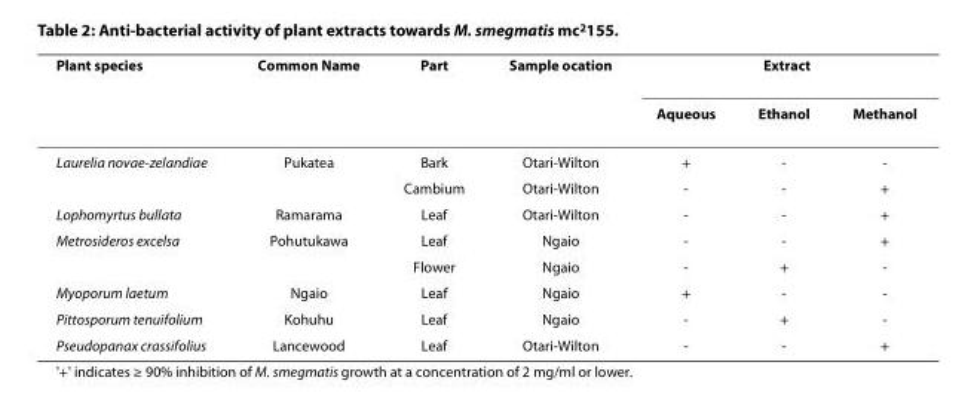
<table><thead><tr><td rowspan="2">Plant species</td><td rowspan="2">Common Name</td><td rowspan="2">Part</td><td rowspan="2">Sample ocation</td><td colspan="3">Extract</td></tr><tr><td>Aqueous</td><td>Ethanol</td><td>Methanol</td></tr></thead><tbody><tr><td rowspan="2">Laurelia novae-zelandiae</td><td>Pukatea</td><td>Bark</td><td>Otari-Wilton</td><td>+</td><td>-</td><td>-</td></tr><tr><td></td><td>Cambium</td><td>Otari-Wilton</td><td>-</td><td>-</td><td>+</td></tr><tr><td>Lophomyrtus bullata</td><td>Ramarama</td><td>Leaf</td><td>Otari-Wilton</td><td>-</td><td>-</td><td>+</td></tr><tr><td rowspan="2">Metrosideros excelsa</td><td>Pohutukawa</td><td>Leaf</td><td>Ngaio</td><td>-</td><td>-</td><td>+</td></tr><tr><td></td><td>Flower</td><td>Ngaio</td><td>-</td><td>+</td><td>-</td></tr><tr><td>Myoporum laetum</td><td>Ngaio</td><td>Leaf</td><td>Ngaio</td><td>+</td><td>-</td><td>-</td></tr><tr><td>Pittosporum tenuifolium</td><td>Kohuhu</td><td>Leaf</td><td>Ngaio</td><td>-</td><td>+</td><td>-</td></tr><tr><td>Pseudopanax crassifolius</td><td>Lancewood</td><td>Leaf</td><td>Otari-Wilton</td><td>-</td><td>-</td><td>+</td></tr></tbody></table>